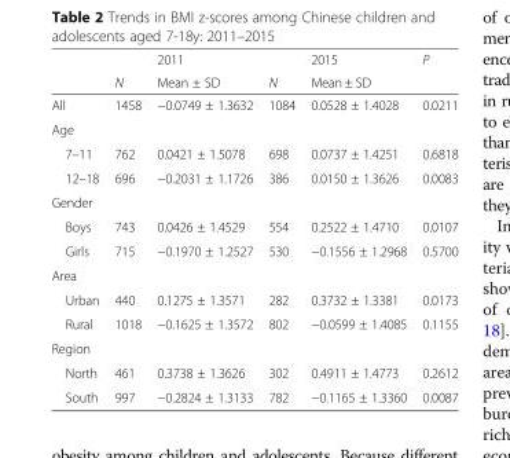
<table><thead><tr><td rowspan="2"></td><td rowspan="2">N</td><td rowspan="2">2011 Mean ± SD</td><td rowspan="2">N</td><td rowspan="2">2015 Mean ± SD</td><td rowspan="2">P</td></tr><tr></tr></thead><tbody><tr><td>All</td><td>1458</td><td>−0.0749 ± 1.3632</td><td>1084</td><td>0.0528 ± 1.4028</td><td>0.0211</td></tr><tr><td colspan="6">Age</td></tr><tr><td>7–11</td><td>762</td><td>0.0421 ± 1.5078</td><td>698</td><td>0.0737 ± 1.4251</td><td>0.6818</td></tr><tr><td>12–18</td><td>696</td><td>−0.2031 ± 1.1726</td><td>386</td><td>0.0150 ± 1.3626</td><td>0.0083</td></tr><tr><td colspan="6">Gender</td></tr><tr><td>Boys</td><td>743</td><td>0.0426 ± 1.4529</td><td>554</td><td>0.2522 ± 1.4710</td><td>0.0107</td></tr><tr><td>Girls</td><td>715</td><td>−0.1970 ± 1.2527</td><td>530</td><td>−0.1556 ± 1.2968</td><td>0.5700</td></tr><tr><td colspan="6">Area</td></tr><tr><td>Urban</td><td>440</td><td>0.1275 ± 1.3571</td><td>282</td><td>0.3732 ± 1.3381</td><td>0.0173</td></tr><tr><td>Rural</td><td>1018</td><td>−0.1625 ± 1.3572</td><td>802</td><td>−0.0599 ± 1.4085</td><td>0.1155</td></tr><tr><td colspan="6">Region</td></tr><tr><td>North</td><td>461</td><td>0.3738 ± 1.3626</td><td>302</td><td>0.4911 ± 1.4773</td><td>0.2612</td></tr><tr><td>South</td><td>997</td><td>−0.2824 ± 1.3133</td><td>782</td><td>−0.1165 ± 1.3360</td><td>0.0087</td></tr></tbody></table>